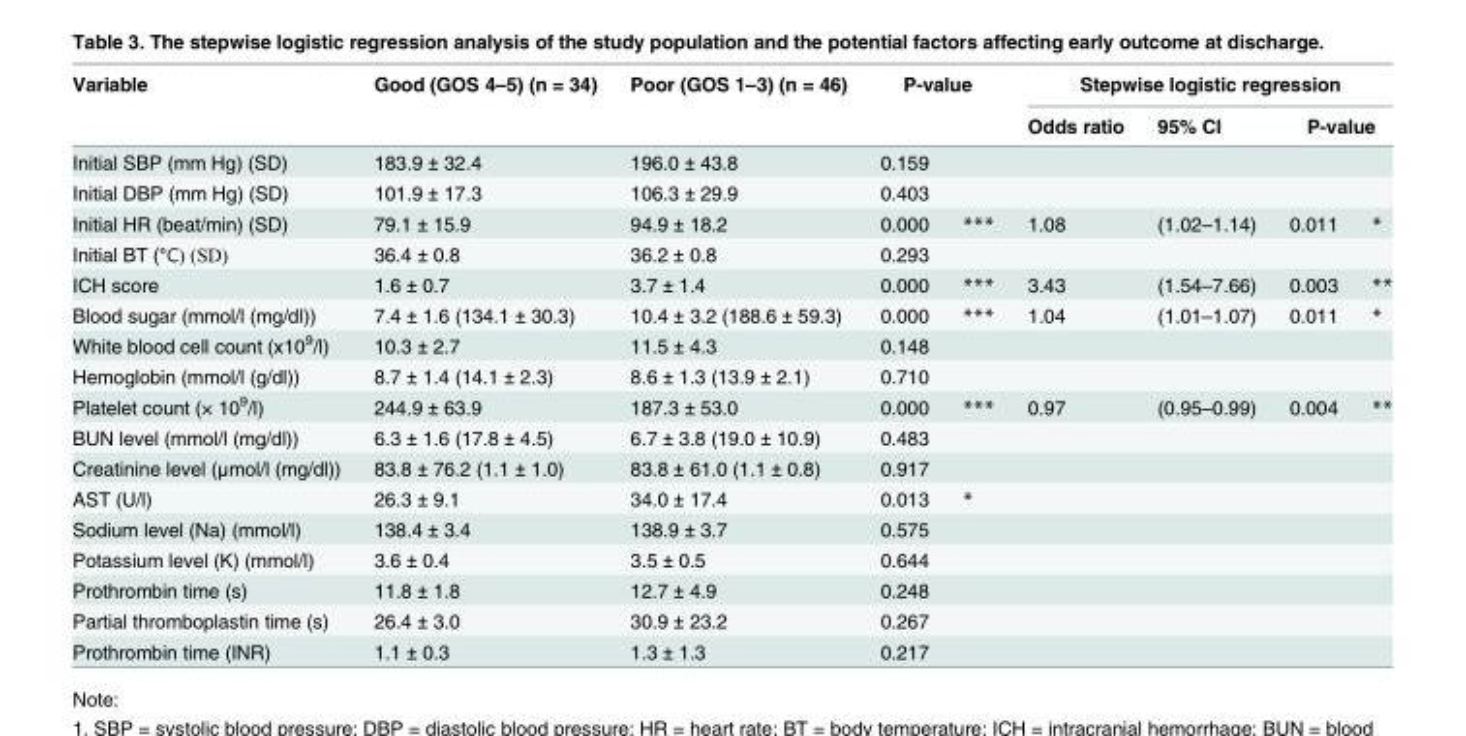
<table><thead><tr><td rowspan="3">Variable Initial SBP (mm Hg) (SD)</td><td rowspan="3">Good (GOS 4–5) (n = 34) 183.9 ± 32.4</td><td rowspan="3">Poor (GOS 1–3) (n = 46) 196.0 ± 43.8</td><td colspan="2">P-value</td><td colspan="4">Stepwise logistic regression</td></tr><tr><td rowspan="2">0.159</td><td rowspan="2"></td><td rowspan="2">Odds ratio</td><td rowspan="2">95% CI</td><td colspan="2">P-value</td></tr><tr><td></td><td></td></tr></thead><tbody><tr><td>Initial DBP (mm Hg) (SD)</td><td>101.9 ± 17.3</td><td>106.3 ± 29.9</td><td>0.403</td><td></td><td></td><td></td><td></td><td></td></tr><tr><td>Initial HR (beat/min) (SD)</td><td>79.1 ± 15.9</td><td>94.9 ± 18.2</td><td>0.000</td><td>***</td><td>1.08</td><td>(1.02–1.14)</td><td>0.011</td><td>*</td></tr><tr><td>Initial BT (℃) (SD)</td><td>36.4 ± 0.8</td><td>36.2 ± 0.8</td><td>0.293</td><td></td><td></td><td></td><td></td><td></td></tr><tr><td>ICH score</td><td>1.6 ± 0.7</td><td>3.7 ± 1.4</td><td>0.000</td><td>***</td><td>3.43</td><td>(1.54–7.66)</td><td>0.003</td><td>**</td></tr><tr><td>Blood sugar (mmol/l (mg/dl))</td><td>7.4 ± 1.6 (134.1 ± 30.3)</td><td>10.4 ± 3.2 (188.6 ± 59.3)</td><td>0.000</td><td>***</td><td>1.04</td><td>(1.01–1.07)</td><td>0.011</td><td>*</td></tr><tr><td>White blood cell count (x10<sup>9</sup>/l)</td><td>10.3 ± 2.7</td><td>11.5 ± 4.3</td><td>0.148</td><td></td><td></td><td></td><td></td><td></td></tr><tr><td>Hemoglobin (mmol/l (g/dl))</td><td>8.7 ± 1.4 (14.1 ± 2.3)</td><td>8.6 ± 1.3 (13.9 ± 2.1)</td><td>0.710</td><td></td><td></td><td></td><td></td><td></td></tr><tr><td>Platelet count (× 10<sup>9</sup>/l)</td><td>244.9 ± 63.9</td><td>187.3 ± 53.0</td><td>0.000</td><td>***</td><td>0.97</td><td>(0.95–0.99)</td><td>0.004</td><td>**</td></tr><tr><td>BUN level (mmol/l (mg/dl))</td><td>6.3 ± 1.6 (17.8 ± 4.5)</td><td>6.7 ± 3.8 (19.0 ± 10.9)</td><td>0.483</td><td></td><td></td><td></td><td></td><td></td></tr><tr><td>Creatinine level (μmol/l (mg/dl))</td><td>83.8 ± 76.2 (1.1 ± 1.0)</td><td>83.8 ± 61.0 (1.1 ± 0.8)</td><td>0.917</td><td></td><td></td><td></td><td></td><td></td></tr><tr><td>AST (U/l)</td><td>26.3 ± 9.1</td><td>34.0 ± 17.4</td><td>0.013</td><td>*</td><td></td><td></td><td></td><td></td></tr><tr><td>Sodium level (Na) (mmol/l)</td><td>138.4 ± 3.4</td><td>138.9 ± 3.7</td><td>0.575</td><td></td><td></td><td></td><td></td><td></td></tr><tr><td>Potassium level (K) (mmol/l)</td><td>3.6 ± 0.4</td><td>3.5 ± 0.5</td><td>0.644</td><td></td><td></td><td></td><td></td><td></td></tr><tr><td>Prothrombin time (s)</td><td>11.8 ± 1.8</td><td>12.7 ± 4.9</td><td>0.248</td><td></td><td></td><td></td><td></td><td></td></tr><tr><td>Partial thromboplastin time (s)</td><td>26.4 ± 3.0</td><td>30.9 ± 23.2</td><td>0.267</td><td></td><td></td><td></td><td></td><td></td></tr><tr><td>Prothrombin time (INR)</td><td>1.1 ± 0.3</td><td>1.3 ± 1.3</td><td>0.217</td><td></td><td></td><td></td><td></td><td></td></tr></tbody></table>